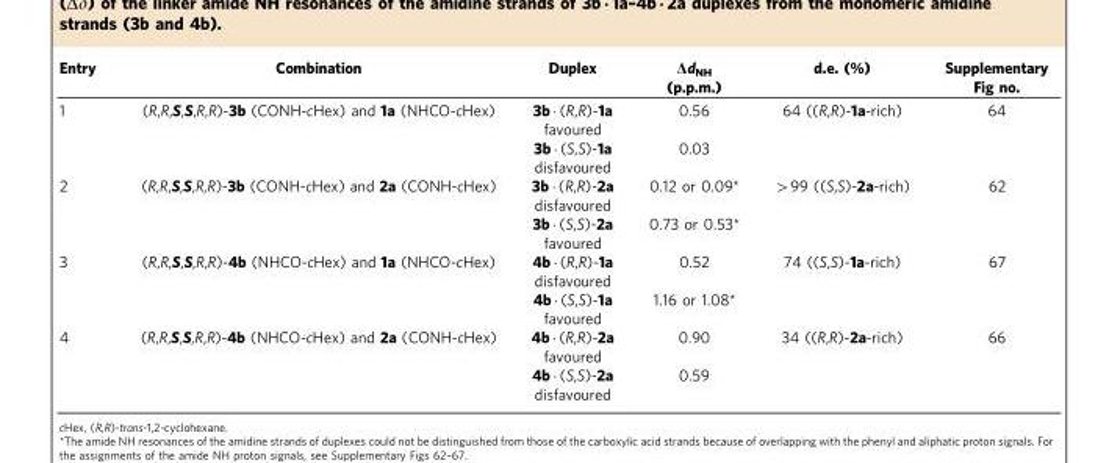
<table><thead><tr><td>Entry</td><td>Combination</td><td>Duplex</td><td>Δd<sub>NH</sub> (p.p.m.)</td><td>d.e. (%)</td><td>Supplementary Fig no.</td></tr></thead><tbody><tr><td rowspan="2">1</td><td>(R,R,S,S,R,R)-3b (CONH-cHex) and 1a (NHCO-cHex)</td><td>3b · (R,R)-1a favoured</td><td>0.56</td><td>64 ((R,R)-1a-rich)</td><td>64</td></tr><tr><td></td><td>3b · (S,S)-1a disfavoured</td><td>0.03</td><td></td><td></td></tr><tr><td rowspan="2">2</td><td>(R,R,S,S,R,R)-3b (CONH-cHex) and 2a (CONH-cHex)</td><td>3b · (R,R)-2a disfavoured</td><td>0.12 or 0.09*</td><td>&gt;99 ((S,S)-2a-rich)</td><td>62</td></tr><tr><td></td><td>3b · (S,S)-2a favoured</td><td>0.73 or 0.53*</td><td></td><td></td></tr><tr><td rowspan="2">3</td><td>(R,R,S,S,R,R)-4b (NHCO-cHex) and 1a (NHCO-cHex)</td><td>4b · (R,R)-1a disfavoured</td><td>0.52</td><td>74 ((S,S)-1a-rich)</td><td>67</td></tr><tr><td></td><td>4b · (S,S)-1a favoured</td><td>1.16 or 1.08*</td><td></td><td></td></tr><tr><td rowspan="2">4</td><td>(R,R,S,S,R,R)-4b (NHCO-cHex) and 2a (CONH-cHex)</td><td>4b · (R,R)-2a favoured</td><td>0.90</td><td>34 ((R,R)-2a-rich)</td><td>66</td></tr><tr><td></td><td>4b · (S,S)-2a disfavoured</td><td>0.59</td><td></td><td></td></tr></tbody></table>